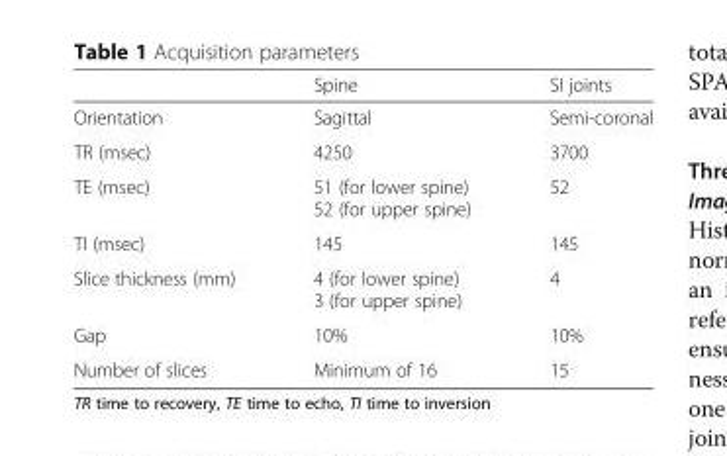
<table><thead><tr><td></td><td>Spine</td><td>SI joints</td></tr></thead><tbody><tr><td>Orientation</td><td>Sagittal</td><td>Semi-coronal</td></tr><tr><td>TR (msec)</td><td>4250</td><td>3700</td></tr><tr><td>TE (msec)</td><td>51 (for lower spine) 52 (for upper spine)</td><td>52</td></tr><tr><td>TI (msec)</td><td>145</td><td>145</td></tr><tr><td>Slice thickness (mm)</td><td>4 (for lower spine) 3 (for upper spine)</td><td>4</td></tr><tr><td>Gap</td><td>10%</td><td>10%</td></tr><tr><td>Number of slices</td><td>Minimum of 16</td><td>15</td></tr></tbody></table>